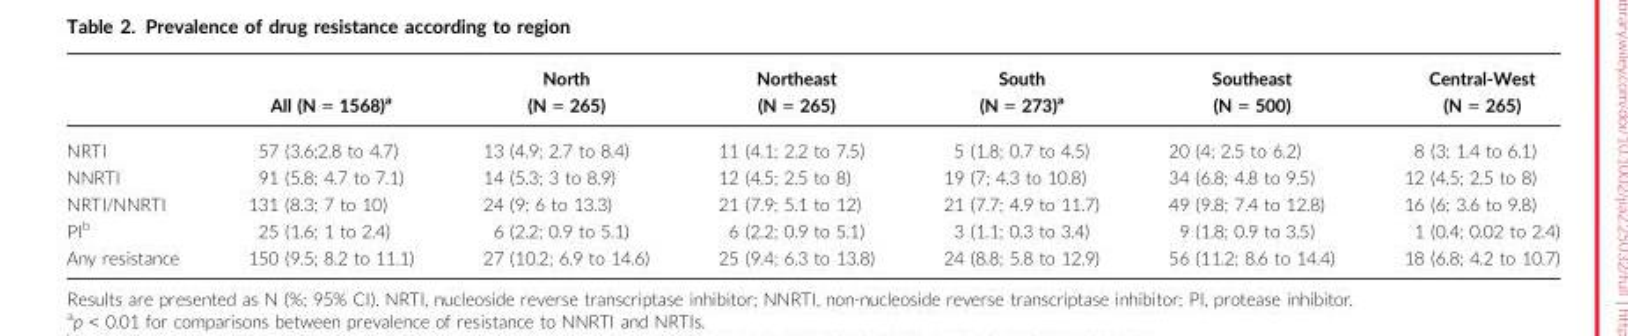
<table><thead><tr><td></td><td>All (N = 1568)<sup>a</sup></td><td>North (N = 265)</td><td>Northeast (N = 265)</td><td>South (N = 273)<sup>a</sup></td><td>Southeast (N = 500)</td><td>Central-West (N = 265)</td></tr></thead><tbody><tr><td>NRTI</td><td>57 (3.6;2.8 to 4.7)</td><td>13 (4.9; 2.7 to 8.4)</td><td>11 (4.1; 2.2 to 7.5)</td><td>5 (1.8; 0.7 to 4.5)</td><td>20 (4; 2.5 to 6.2)</td><td>8 (3; 1.4 to 6.1)</td></tr><tr><td>NNRTI</td><td>91 (5.8; 4.7 to 7.1)</td><td>14 (5.3; 3 to 8.9)</td><td>12 (4.5; 2.5 to 8)</td><td>19 (7; 4.3 to 10.8)</td><td>34 (6.8; 4.8 to 9.5)</td><td>12 (4.5; 2.5 to 8)</td></tr><tr><td>NRTI/NNRTI</td><td>131 (8.3; 7 to 10)</td><td>24 (9; 6 to 13.3)</td><td>21 (7.9; 5.1 to 12)</td><td>21 (7.7; 4.9 to 11.7)</td><td>49 (9.8; 7.4 to 12.8)</td><td>16 (6; 3.6 to 9.8)</td></tr><tr><td>PI<sup>b</sup></td><td>25 (1.6; 1 to 2.4)</td><td>6 (2.2; 0.9 to 5.1)</td><td>6 (2.2; 0.9 to 5.1)</td><td>3 (1.1; 0.3 to 3.4)</td><td>9 (1.8; 0.9 to 3.5)</td><td>1 (0.4; 0.02 to 2.4)</td></tr><tr><td>Any resistance</td><td>150 (9.5; 8.2 to 11.1)</td><td>27 (10.2; 6.9 to 14.6)</td><td>25 (9.4; 6.3 to 13.8)</td><td>24 (8.8; 5.8 to 12.9)</td><td>56 (11.2; 8.6 to 14.4)</td><td>18 (6.8; 4.2 to 10.7)</td></tr></tbody></table>